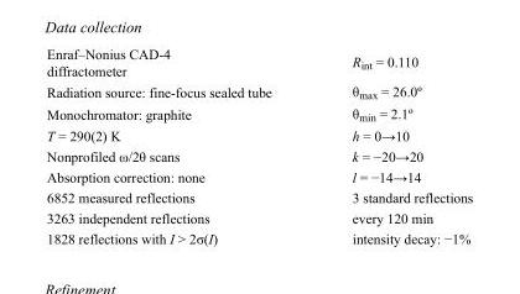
<table><tbody><tr><td>Enraf–Nonius CAD-4 diffractometer</td><td>R<sub>int</sub> = 0.110</td></tr><tr><td>Radiation source: fine-focus sealed tube</td><td>θ<sub>max</sub> = 26.0º</td></tr><tr><td>Monochromator: graphite</td><td>θ<sub>min</sub> = 2.1º</td></tr><tr><td>T = 290(2) K</td><td>h = 0→10</td></tr><tr><td>Nonprofiled ω/2θ scans</td><td>k = −20→20</td></tr><tr><td>Absorption correction: none</td><td>l = −14→14</td></tr><tr><td>6852 measured reflections</td><td>3 standard reflections</td></tr><tr><td>3263 independent reflections</td><td>every 120 min</td></tr><tr><td>1828 reflections with I &gt; 2σ(I)</td><td>intensity decay: −1%</td></tr></tbody></table>